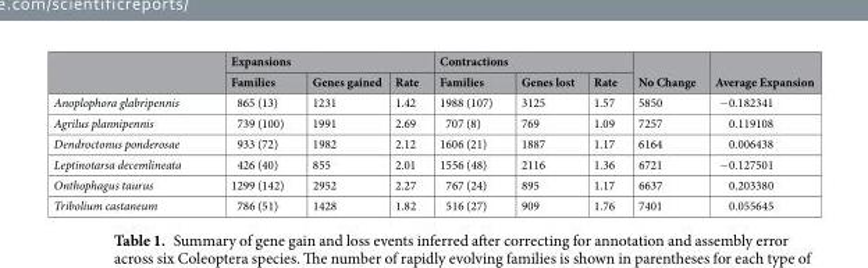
<table><thead><tr><td rowspan="2"></td><td colspan="3">Expansions</td><td colspan="3">Contractions</td><td rowspan="2">No Change</td><td rowspan="2">Average Expansion</td></tr><tr><td>Families</td><td>Genes gained</td><td>Rate</td><td>Families</td><td>Genes lost</td><td>Rate</td></tr></thead><tbody><tr><td>Anoplophora glabripennis</td><td>865 (13)</td><td>1231</td><td>1.42</td><td>1988 (107)</td><td>3125</td><td>1.57</td><td>5850</td><td>−0.182341</td></tr><tr><td>Agrilus plannipennis</td><td>739 (100)</td><td>1991</td><td>2.69</td><td>707 (8)</td><td>769</td><td>1.09</td><td>7257</td><td>0.119108</td></tr><tr><td>Dendroctonus ponderosae</td><td>933 (72)</td><td>1982</td><td>2.12</td><td>1606 (21)</td><td>1887</td><td>1.17</td><td>6164</td><td>0.006438</td></tr><tr><td>Leptinotarsa decemlineata</td><td>426 (40)</td><td>855</td><td>2.01</td><td>1556 (48)</td><td>2116</td><td>1.36</td><td>6721</td><td>−0.127501</td></tr><tr><td>Onthophagus taurus</td><td>1299 (142)</td><td>2952</td><td>2.27</td><td>767 (24)</td><td>895</td><td>1.17</td><td>6637</td><td>0.203380</td></tr><tr><td>Tribolium castaneum</td><td>786 (51)</td><td>1428</td><td>1.82</td><td>516 (27)</td><td>909</td><td>1.76</td><td>7401</td><td>0.055645</td></tr></tbody></table>